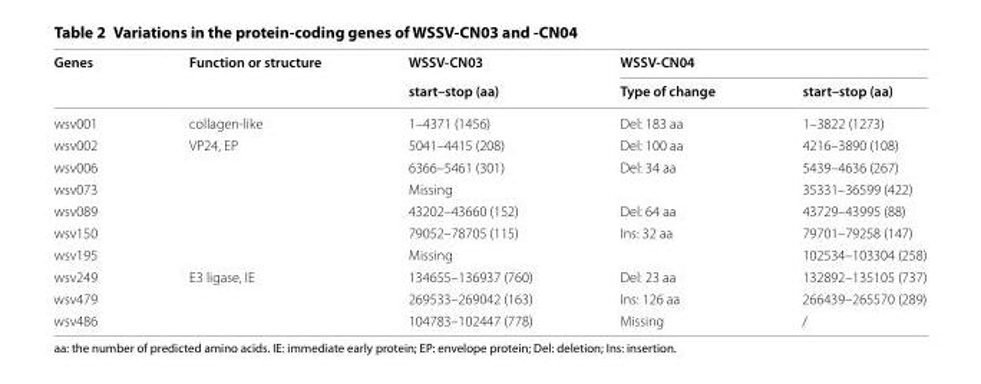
<table><thead><tr><td rowspan="2">Genes</td><td rowspan="2">Function or structure</td><td rowspan="2">WSSV‑CN03 start–stop (aa)</td><td colspan="2">WSSV‑CN04</td></tr><tr><td>Type of change</td><td>start–stop (aa)</td></tr></thead><tbody><tr><td>wsv001</td><td>collagen-like</td><td>1–4371 (1456)</td><td>Del: 183 aa</td><td>1–3822 (1273)</td></tr><tr><td>wsv002</td><td>VP24, EP</td><td>5041–4415 (208)</td><td>Del: 100 aa</td><td>4216–3890 (108)</td></tr><tr><td>wsv006</td><td></td><td>6366–5461 (301)</td><td>Del: 34 aa</td><td>5439–4636 (267)</td></tr><tr><td>wsv073</td><td></td><td>Missing</td><td></td><td>35331–36599 (422)</td></tr><tr><td>wsv089</td><td></td><td>43202–43660 (152)</td><td>Del: 64 aa</td><td>43729–43995 (88)</td></tr><tr><td>wsv150</td><td></td><td>79052–78705 (115)</td><td>Ins: 32 aa</td><td>79701–79258 (147)</td></tr><tr><td>wsv195</td><td></td><td>Missing</td><td></td><td>102534–103304 (258)</td></tr><tr><td>wsv249</td><td>E3 ligase, IE</td><td>134655–136937 (760)</td><td>Del: 23 aa</td><td>132892–135105 (737)</td></tr><tr><td>wsv479</td><td></td><td>269533–269042 (163)</td><td>Ins: 126 aa</td><td>266439–265570 (289)</td></tr><tr><td>wsv486</td><td></td><td>104783–102447 (778)</td><td>Missing</td><td>/</td></tr></tbody></table>